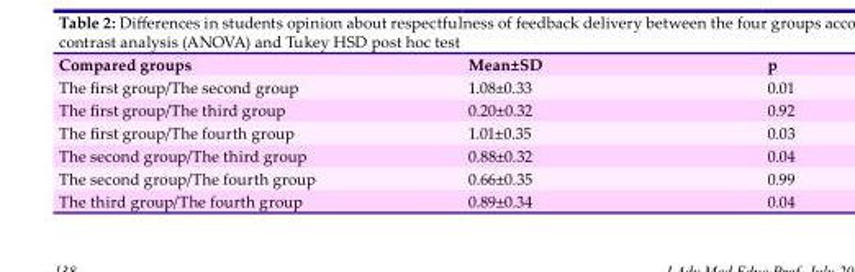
<table><thead><tr><td>Compared groups</td><td>Mean±SD</td><td>p</td></tr></thead><tbody><tr><td>The first group/The second group</td><td>1.08±0.33</td><td>0.01</td></tr><tr><td>The first group/The third group</td><td>0.20±0.32</td><td>0.92</td></tr><tr><td>The first group/The fourth group</td><td>1.01±0.35</td><td>0.03</td></tr><tr><td>The second group/The third group</td><td>0.88±0.32</td><td>0.04</td></tr><tr><td>The second group/The fourth group</td><td>0.66±0.35</td><td>0.99</td></tr><tr><td>The third group/The fourth group</td><td>0.89±0.34</td><td>0.04</td></tr></tbody></table>